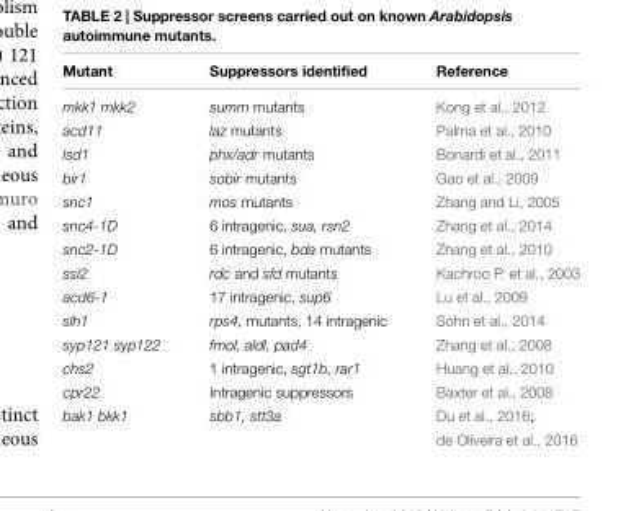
<table><thead><tr><td>Mutant</td><td>Suppressors identified</td><td>Reference</td></tr></thead><tbody><tr><td>mkk1 mkk2</td><td>summ mutants</td><td>Kong et al., 2012</td></tr><tr><td>acd11</td><td>laz mutants</td><td>Palma et al., 2010</td></tr><tr><td>lsd1</td><td>phx/adr mutants</td><td>Bonardi et al., 2011</td></tr><tr><td>bir1</td><td>sobir mutants</td><td>Gao et al., 2009</td></tr><tr><td>snc1</td><td>mos mutants</td><td>Zhang and Li, 2005</td></tr><tr><td>snc4-1D</td><td>6 intragenic, sua, rsn2</td><td>Zhang et al., 2014</td></tr><tr><td>snc2-1D</td><td>6 intragenic, bda mutants</td><td>Zhang et al., 2010</td></tr><tr><td>ssi2</td><td>rdc and sfd mutants</td><td>Kachroo P. et al., 2003</td></tr><tr><td>acd6-1</td><td>17 intragenic, sup6</td><td>Lu et al., 2009</td></tr><tr><td>slh1</td><td>rps4, mutants, 14 intragenic</td><td>Sohn et al., 2014</td></tr><tr><td>syp121 syp122</td><td>fmol, aldl, pad4</td><td>Zhang et al., 2008</td></tr><tr><td>chs2</td><td>1 intragenic, sgt1b, rar1</td><td>Huang et al., 2010</td></tr><tr><td>cpr22</td><td>Intragenic suppressors</td><td>Baxter et al., 2008</td></tr><tr><td rowspan="2">bak1 bkk1</td><td>sbb1, stt3a</td><td>Du et al., 2016;</td></tr><tr><td></td><td>de Oliveira et al., 2016</td></tr></tbody></table>